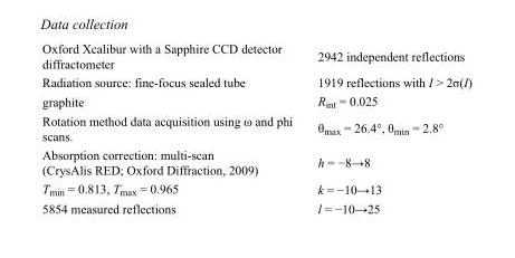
<table><tbody><tr><td>Oxford Xcalibur with a Sapphire CCD detector diffractometer</td><td>2942 independent reflections</td></tr><tr><td>Radiation source: fine-focus sealed tube</td><td>1919 reflections with I &gt; 2σ(I)</td></tr><tr><td>graphite</td><td>R<sub>int</sub> = 0.025</td></tr><tr><td>Rotation method data acquisition using ω and phi scans.</td><td>θ<sub>max</sub> = 26.4°, θ<sub>min</sub> = 2.8°</td></tr><tr><td>Absorption correction: multi-scan (CrysAlis RED; Oxford Diffraction, 2009)</td><td>h = −8→8</td></tr><tr><td>T<sub>min</sub> = 0.813, T<sub>max</sub> = 0.965</td><td>k = −10→13</td></tr><tr><td>5854 measured reflections</td><td>l = −10→25</td></tr></tbody></table>